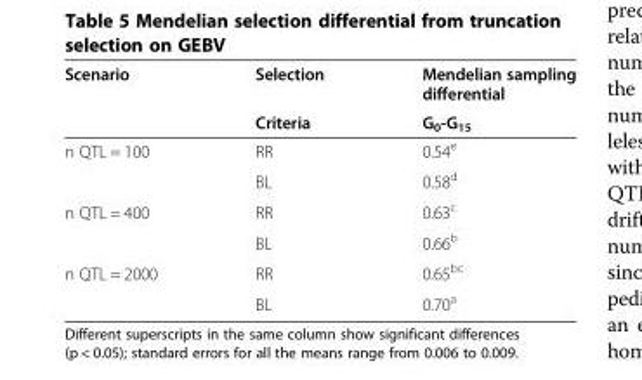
<table><thead><tr><td rowspan="2">Scenario</td><td rowspan="2">Selection Criteria</td><td rowspan="2">Mendelian sampling differential G<sub>0</sub>-G<sub>15</sub></td></tr><tr></tr></thead><tbody><tr><td rowspan="2">n QTL = 100</td><td>RR</td><td>0.54<sup>e</sup></td></tr><tr><td>BL</td><td>0.58<sup>d</sup></td></tr><tr><td rowspan="2">n QTL = 400</td><td>RR</td><td>0.63<sup>c</sup></td></tr><tr><td>BL</td><td>0.66<sup>b</sup></td></tr><tr><td rowspan="2">n QTL = 2000</td><td>RR</td><td>0.65<sup>bc</sup></td></tr><tr><td>BL</td><td>0.70<sup>a</sup></td></tr></tbody></table>